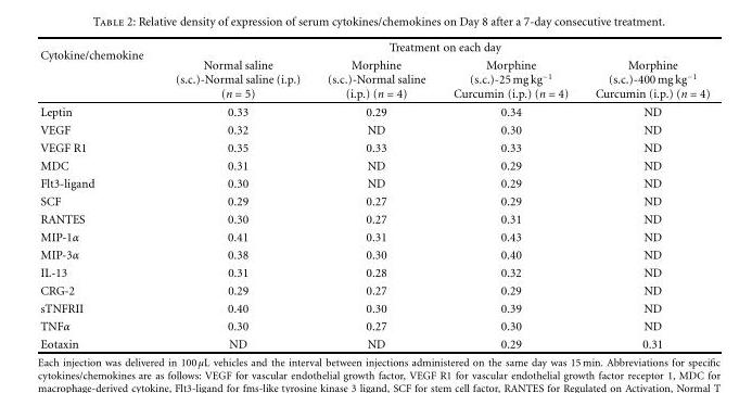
<table><thead><tr><td rowspan="2">Cytokine/chemokine</td><td colspan="4">Treatment on each day</td></tr><tr><td>Normal saline (s.c.)-Normal saline (i.p.) (n = 5)</td><td>Morphine (s.c.)-Normal saline (i.p.) (n = 4)</td><td>Morphine (s.c.)-25mg kg<sup>−1</sup> Curcumin (i.p.) (n = 4)</td><td>Morphine (s.c.)-400mg kg<sup>−1</sup> Curcumin (i.p.) (n = 4)</td></tr></thead><tbody><tr><td>Leptin</td><td>0.33</td><td>0.29</td><td>0.34</td><td>ND</td></tr><tr><td>VEGF</td><td>0.32</td><td>ND</td><td>0.30</td><td>ND</td></tr><tr><td>VEGF R1</td><td>0.35</td><td>0.33</td><td>0.33</td><td>ND</td></tr><tr><td>MDC</td><td>0.31</td><td>ND</td><td>0.29</td><td>ND</td></tr><tr><td>Flt3-ligand</td><td>0.30</td><td>ND</td><td>0.29</td><td>ND</td></tr><tr><td>SCF</td><td>0.29</td><td>0.27</td><td>0.29</td><td>ND</td></tr><tr><td>RANTES</td><td>0.30</td><td>0.27</td><td>0.31</td><td>ND</td></tr><tr><td>MIP-1α</td><td>0.41</td><td>0.31</td><td>0.43</td><td>ND</td></tr><tr><td>MIP-3α</td><td>0.38</td><td>0.30</td><td>0.40</td><td>ND</td></tr><tr><td>IL-13</td><td>0.31</td><td>0.28</td><td>0.32</td><td>ND</td></tr><tr><td>CRG-2</td><td>0.29</td><td>0.27</td><td>0.29</td><td>ND</td></tr><tr><td>sTNFRII</td><td>0.40</td><td>0.30</td><td>0.39</td><td>ND</td></tr><tr><td>TNFα</td><td>0.30</td><td>0.27</td><td>0.30</td><td>ND</td></tr><tr><td>Eotaxin</td><td>ND</td><td>ND</td><td>0.29</td><td>0.31</td></tr></tbody></table>